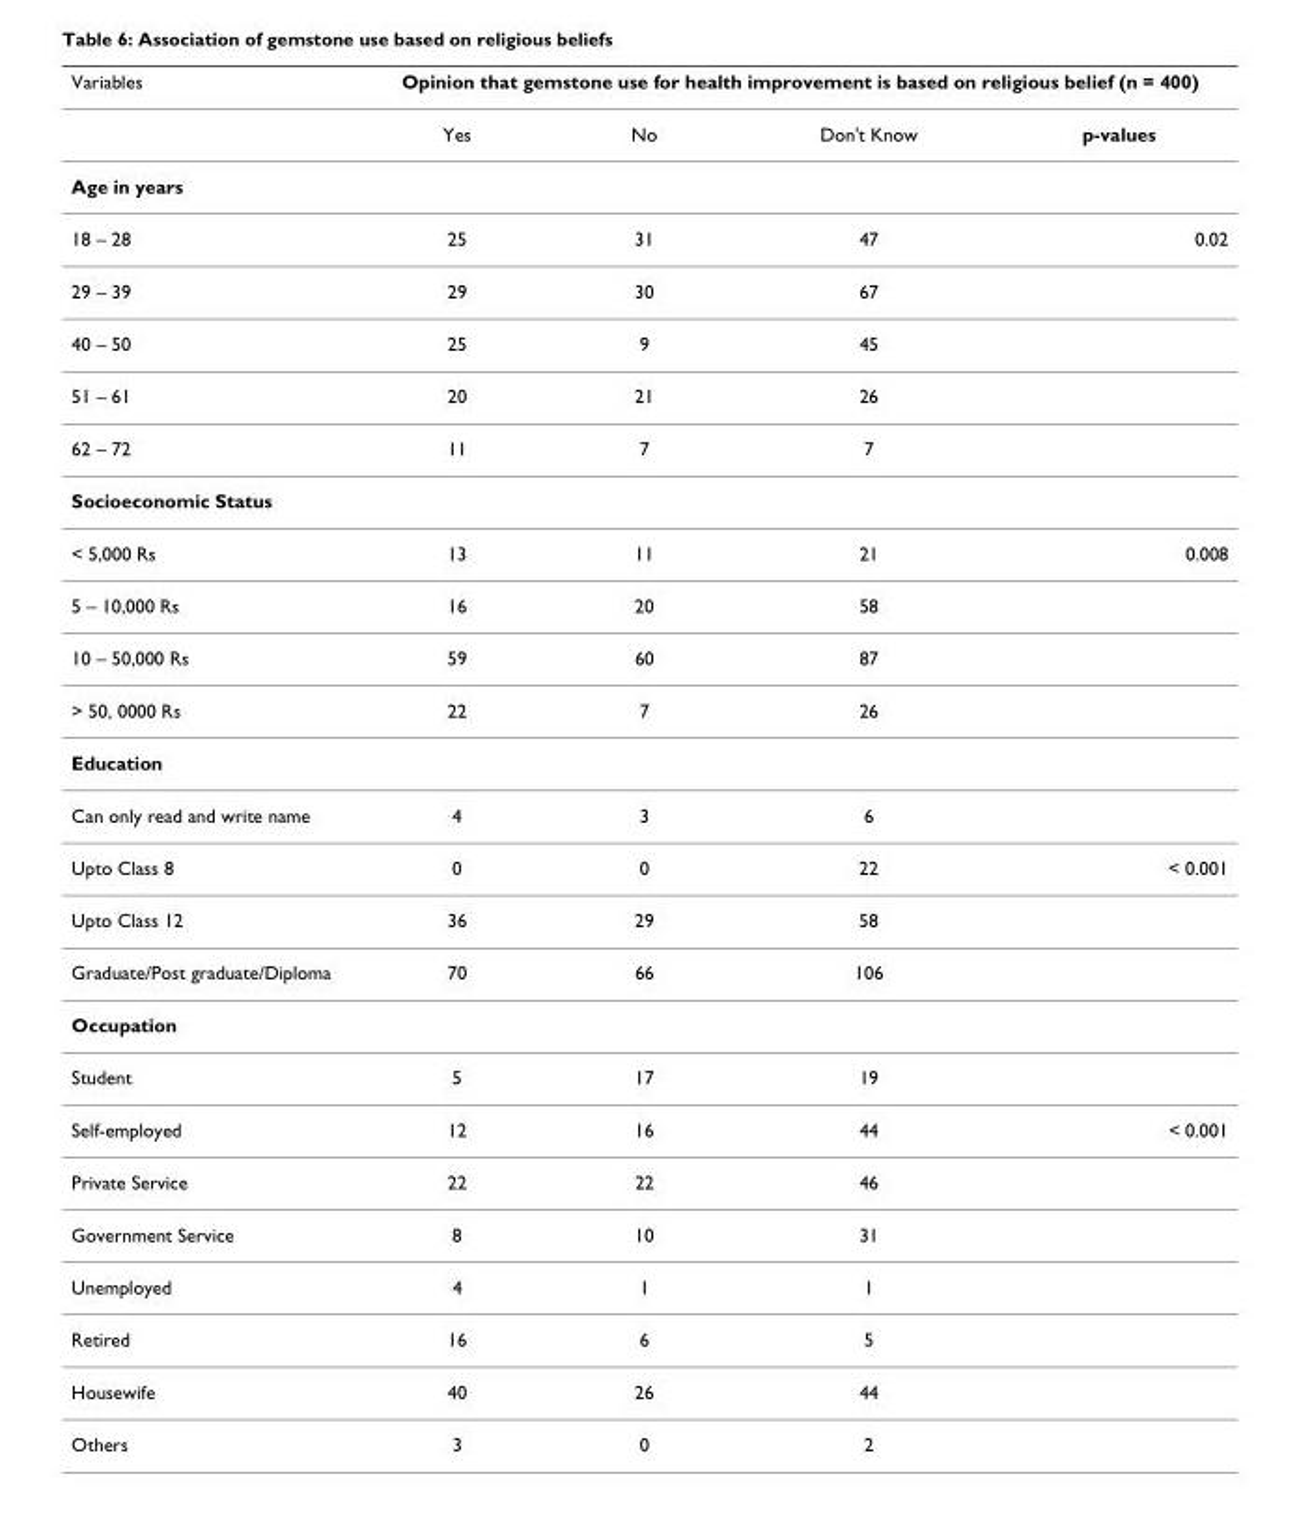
<table><thead><tr><td rowspan="2">Variables</td><td colspan="4">Opinion that gemstone use for health improvement is based on religious belief (n = 400)</td></tr><tr><td>Yes</td><td>No</td><td>Don&#x27;t Know</td><td>p-values</td></tr></thead><tbody><tr><td colspan="5">Age in years</td></tr><tr><td>18 – 28</td><td>25</td><td>31</td><td>47</td><td>0.02</td></tr><tr><td>29 – 39</td><td>29</td><td>30</td><td>67</td><td></td></tr><tr><td>40 – 50</td><td>25</td><td>9</td><td>45</td><td></td></tr><tr><td>51 – 61</td><td>20</td><td>21</td><td>26</td><td></td></tr><tr><td>62 – 72</td><td>11</td><td>7</td><td>7</td><td></td></tr><tr><td colspan="5">Socioeconomic Status</td></tr><tr><td>&lt; 5,000 Rs</td><td>13</td><td>11</td><td>21</td><td>0.008</td></tr><tr><td>5 – 10,000 Rs</td><td>16</td><td>20</td><td>58</td><td></td></tr><tr><td>10 – 50,000 Rs</td><td>59</td><td>60</td><td>87</td><td></td></tr><tr><td>&gt; 50, 0000 Rs</td><td>22</td><td>7</td><td>26</td><td></td></tr><tr><td colspan="5">Education</td></tr><tr><td>Can only read and write name</td><td>4</td><td>3</td><td>6</td><td></td></tr><tr><td>Upto Class 8</td><td>0</td><td>0</td><td>22</td><td>&lt; 0.001</td></tr><tr><td>Upto Class 12</td><td>36</td><td>29</td><td>58</td><td></td></tr><tr><td>Graduate/Post graduate/Diploma</td><td>70</td><td>66</td><td>106</td><td></td></tr><tr><td colspan="5">Occupation</td></tr><tr><td>Student</td><td>5</td><td>17</td><td>19</td><td></td></tr><tr><td>Self-employed</td><td>12</td><td>16</td><td>44</td><td>&lt; 0.001</td></tr><tr><td>Private Service</td><td>22</td><td>22</td><td>46</td><td></td></tr><tr><td>Government Service</td><td>8</td><td>10</td><td>31</td><td></td></tr><tr><td>Unemployed</td><td>4</td><td>1</td><td>1</td><td></td></tr><tr><td>Retired</td><td>16</td><td>6</td><td>5</td><td></td></tr><tr><td>Housewife</td><td>40</td><td>26</td><td>44</td><td></td></tr><tr><td>Others</td><td>3</td><td>0</td><td>2</td><td></td></tr></tbody></table>